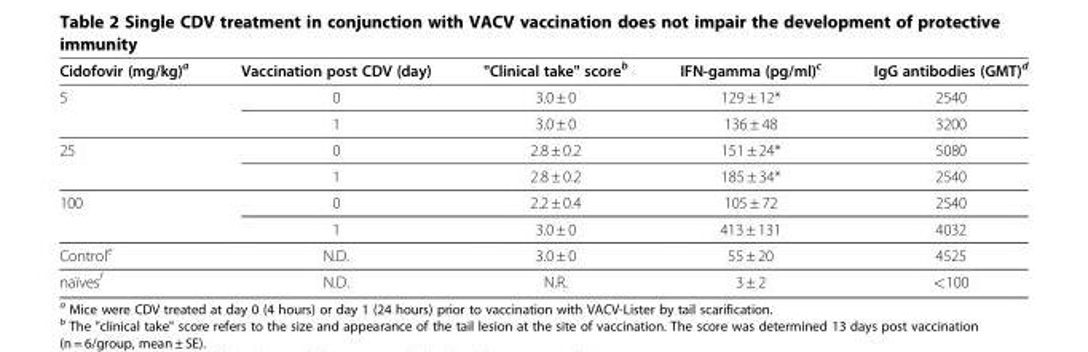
<table><thead><tr><td>Cidofovir (mg/kg)<sup>a</sup></td><td>Vaccination post CDV (day)</td><td>&quot;Clinical take&quot; score<sup>b</sup></td><td>IFN-gamma (pg/ml)<sup>c</sup></td><td>IgG antibodies (GMT)<sup>d</sup></td></tr></thead><tbody><tr><td rowspan="2">5</td><td>0</td><td>3.0 ± 0</td><td>129 ± 12*</td><td>2540</td></tr><tr><td>1</td><td>3.0 ± 0</td><td>136 ± 48</td><td>3200</td></tr><tr><td rowspan="2">25</td><td>0</td><td>2.8 ± 0.2</td><td>151 ± 24*</td><td>5080</td></tr><tr><td>1</td><td>2.8 ± 0.2</td><td>185 ± 34*</td><td>2540</td></tr><tr><td rowspan="2">100</td><td>0</td><td>2.2 ± 0.4</td><td>105 ± 72</td><td>2540</td></tr><tr><td>1</td><td>3.0 ± 0</td><td>413 ± 131</td><td>4032</td></tr><tr><td>Control<sup>e</sup></td><td>N.D.</td><td>3.0 ± 0</td><td>55 ± 20</td><td>4525</td></tr><tr><td>naïves<sup>f</sup></td><td>N.D.</td><td>N.R.</td><td>3 ± 2</td><td>&lt;100</td></tr></tbody></table>